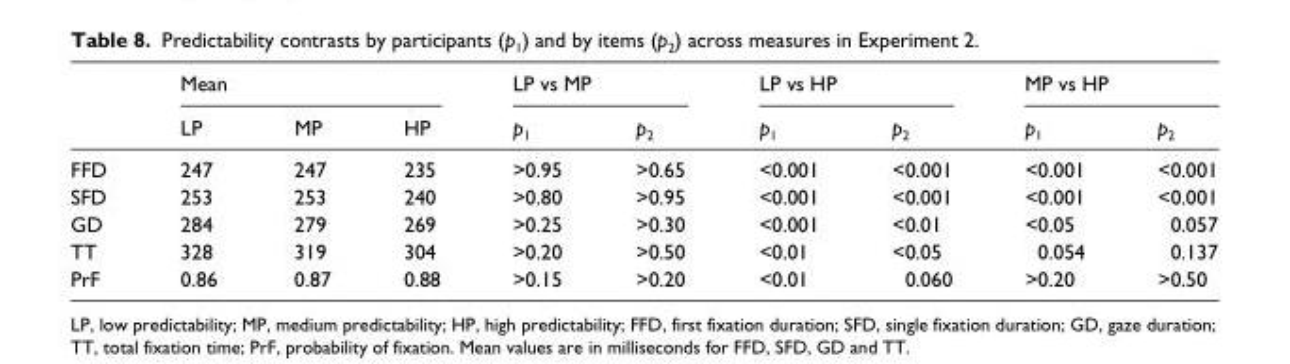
<table><thead><tr><td rowspan="2"></td><td colspan="3">Mean</td><td colspan="2">LP vs MP</td><td colspan="2">LP vs HP</td><td colspan="2">MP vs HP</td></tr><tr><td>LP</td><td>MP</td><td>HP</td><td>p<sub>1</sub></td><td>p<sub>2</sub></td><td>p<sub>1</sub></td><td>p<sub>2</sub></td><td>p<sub>1</sub></td><td>p<sub>2</sub></td></tr></thead><tbody><tr><td>FFD</td><td>247</td><td>247</td><td>235</td><td>&gt;0.95</td><td>&gt;0.65</td><td>&lt;0.001</td><td>&lt;0.001</td><td>&lt;0.001</td><td>&lt;0.001</td></tr><tr><td>SFD</td><td>253</td><td>253</td><td>240</td><td>&gt;0.80</td><td>&gt;0.95</td><td>&lt;0.001</td><td>&lt;0.001</td><td>&lt;0.001</td><td>&lt;0.001</td></tr><tr><td>GD</td><td>284</td><td>279</td><td>269</td><td>&gt;0.25</td><td>&gt;0.30</td><td>&lt;0.001</td><td>&lt;0.01</td><td>&lt;0.05</td><td>0.057</td></tr><tr><td>TT</td><td>328</td><td>319</td><td>304</td><td>&gt;0.20</td><td>&gt;0.50</td><td>&lt;0.01</td><td>&lt;0.05</td><td>0.054</td><td>0.137</td></tr><tr><td>PrF</td><td>0.86</td><td>0.87</td><td>0.88</td><td>&gt;0.15</td><td>&gt;0.20</td><td>&lt;0.01</td><td>0.060</td><td>&gt;0.20</td><td>&gt;0.50</td></tr></tbody></table>